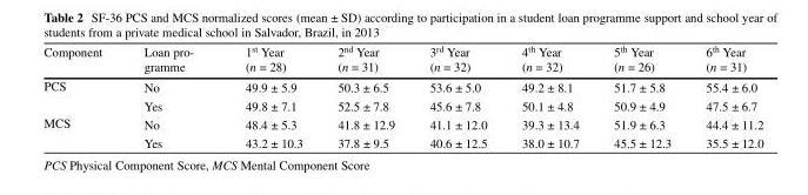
<table><thead><tr><td>Component</td><td>Loan pro- gramme</td><td>1<sup>st</sup> Year (n = 28)</td><td>2<sup>nd</sup> Year (n = 31)</td><td>3<sup>rd</sup> Year (n = 32)</td><td>4<sup>th</sup> Year (n = 32)</td><td>5<sup>th</sup> Year (n = 26)</td><td>6<sup>th</sup> Year (n = 31)</td></tr></thead><tbody><tr><td rowspan="2">PCS</td><td>No</td><td>49.9 ± 5.9</td><td>50.3 ± 6.5</td><td>53.6 ± 5.0</td><td>49.2 ± 8.1</td><td>51.7 ± 5.8</td><td>55.4 ± 6.0</td></tr><tr><td>Yes</td><td>49.8 ± 7.1</td><td>52.5 ± 7.8</td><td>45.6 ± 7.8</td><td>50.1 ± 4.8</td><td>50.9 ± 4.9</td><td>47.5 ± 6.7</td></tr><tr><td rowspan="2">MCS</td><td>No</td><td>48.4 ± 5.3</td><td>41.8 ± 12.9</td><td>41.1 ± 12.0</td><td>39.3 ± 13.4</td><td>51.9 ± 6.3</td><td>44.4 ± 11.2</td></tr><tr><td>Yes</td><td>43.2 ± 10.3</td><td>37.8 ± 9.5</td><td>40.6 ± 12.5</td><td>38.0 ± 10.7</td><td>45.5 ± 12.3</td><td>35.5 ± 12.0</td></tr></tbody></table>